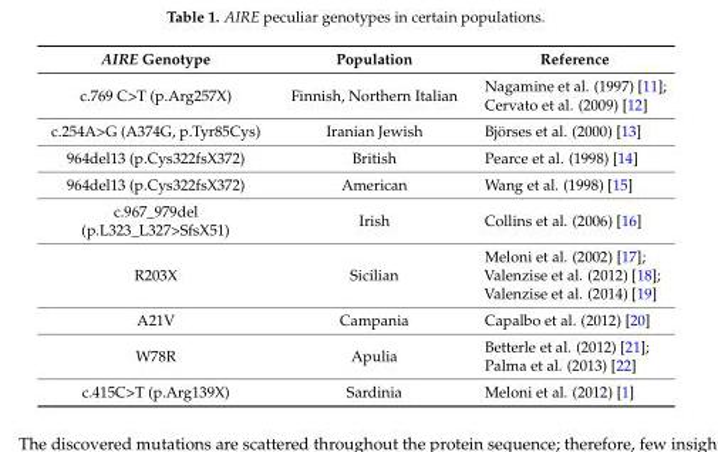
<table><thead><tr><td>AIRE Genotype</td><td>Population</td><td>Reference</td></tr></thead><tbody><tr><td>c.769 C&gt;T (p.Arg257X)</td><td>Finnish, Northern Italian</td><td>Nagamine et al. (1997) [11]; Cervato et al. (2009) [12]</td></tr><tr><td>c.254A&gt;G (A374G, p.Tyr85Cys)</td><td>Iranian Jewish</td><td>Björses et al. (2000) [13]</td></tr><tr><td>964del13 (p.Cys322fsX372)</td><td>British</td><td>Pearce et al. (1998) [14]</td></tr><tr><td>964del13 (p.Cys322fsX372)</td><td>American</td><td>Wang et al. (1998) [15]</td></tr><tr><td>c.967_979del (p.L323_L327&gt;SfsX51)</td><td>Irish</td><td>Collins et al. (2006) [16]</td></tr><tr><td>R203X</td><td>Sicilian</td><td>Meloni et al. (2002) [17]; Valenzise et al. (2012) [18]; Valenzise et al. (2014) [19]</td></tr><tr><td>A21V</td><td>Campania</td><td>Capalbo et al. (2012) [20]</td></tr><tr><td>W78R</td><td>Apulia</td><td>Betterle et al. (2012) [21]; Palma et al. (2013) [22]</td></tr><tr><td>c.415C&gt;T (p.Arg139X)</td><td>Sardinia</td><td>Meloni et al. (2012) [1]</td></tr></tbody></table>